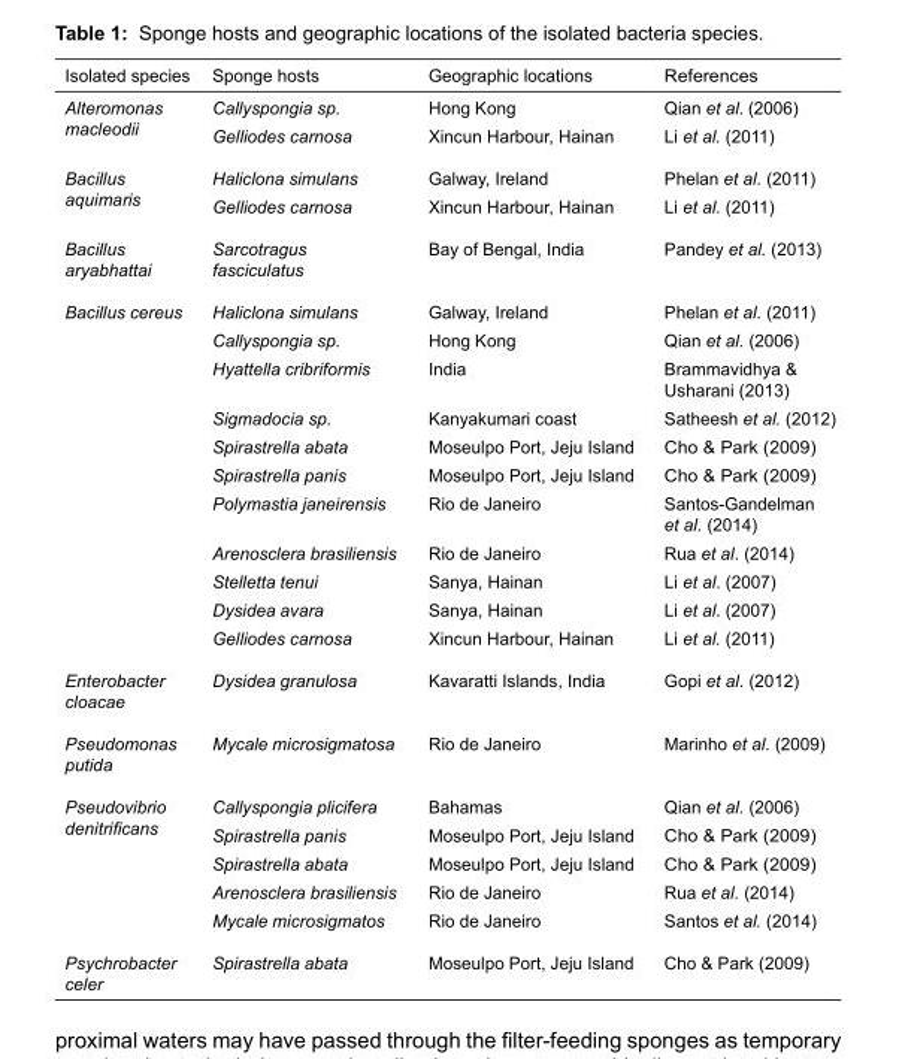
<table><thead><tr><td>Isolated species</td><td>Sponge hosts</td><td>Geographic locations</td><td>References</td></tr></thead><tbody><tr><td rowspan="2">Alteromonas macleodii</td><td>Callyspongia sp.</td><td>Hong Kong</td><td>Qian et al. (2006)</td></tr><tr><td>Gelliodes carnosa</td><td>Xincun Harbour, Hainan</td><td>Li et al. (2011)</td></tr><tr><td rowspan="2">Bacillus aquimaris</td><td>Haliclona simulans</td><td>Galway, Ireland</td><td>Phelan et al. (2011)</td></tr><tr><td>Gelliodes carnosa</td><td>Xincun Harbour, Hainan</td><td>Li et al. (2011)</td></tr><tr><td>Bacillus aryabhattai</td><td>Sarcotragus fasciculatus</td><td>Bay of Bengal, India</td><td>Pandey et al. (2013)</td></tr><tr><td rowspan="11">Bacillus cereus</td><td>Haliclona simulans</td><td>Galway, Ireland</td><td>Phelan et al. (2011)</td></tr><tr><td>Callyspongia sp.</td><td>Hong Kong</td><td>Qian et al. (2006)</td></tr><tr><td>Hyattella cribriformis</td><td>India</td><td>Brammavidhya &amp; Usharani (2013)</td></tr><tr><td>Sigmadocia sp.</td><td>Kanyakumari coast</td><td>Satheesh et al. (2012)</td></tr><tr><td>Spirastrella abata</td><td>Moseulpo Port, Jeju Island</td><td>Cho &amp; Park (2009)</td></tr><tr><td>Spirastrella panis</td><td>Moseulpo Port, Jeju Island</td><td>Cho &amp; Park (2009)</td></tr><tr><td>Polymastia janeirensis</td><td>Rio de Janeiro</td><td>Santos-Gandelman et al. (2014)</td></tr><tr><td>Arenosclera brasiliensis</td><td>Rio de Janeiro</td><td>Rua et al. (2014)</td></tr><tr><td>Stelletta tenui</td><td>Sanya, Hainan</td><td>Li et al. (2007)</td></tr><tr><td>Dysidea avara</td><td>Sanya, Hainan</td><td>Li et al. (2007)</td></tr><tr><td>Gelliodes carnosa</td><td>Xincun Harbour, Hainan</td><td>Li et al. (2011)</td></tr><tr><td>Enterobacter cloacae</td><td>Dysidea granulosa</td><td>Kavaratti Islands, India</td><td>Gopi et al. (2012)</td></tr><tr><td>Pseudomonas putida</td><td>Mycale microsigmatosa</td><td>Rio de Janeiro</td><td>Marinho et al. (2009)</td></tr><tr><td rowspan="5">Pseudovibrio denitrificans</td><td>Callyspongia plicifera</td><td>Bahamas</td><td>Qian et al. (2006)</td></tr><tr><td>Spirastrella panis</td><td>Moseulpo Port, Jeju Island</td><td>Cho &amp; Park (2009)</td></tr><tr><td>Spirastrella abata</td><td>Moseulpo Port, Jeju Island</td><td>Cho &amp; Park (2009)</td></tr><tr><td>Arenosclera brasiliensis</td><td>Rio de Janeiro</td><td>Rua et al. (2014)</td></tr><tr><td>Mycale microsigmatos</td><td>Rio de Janeiro</td><td>Santos et al. (2014)</td></tr><tr><td>Psychrobacter celer</td><td>Spirastrella abata</td><td>Moseulpo Port, Jeju Island</td><td>Cho &amp; Park (2009)</td></tr></tbody></table>